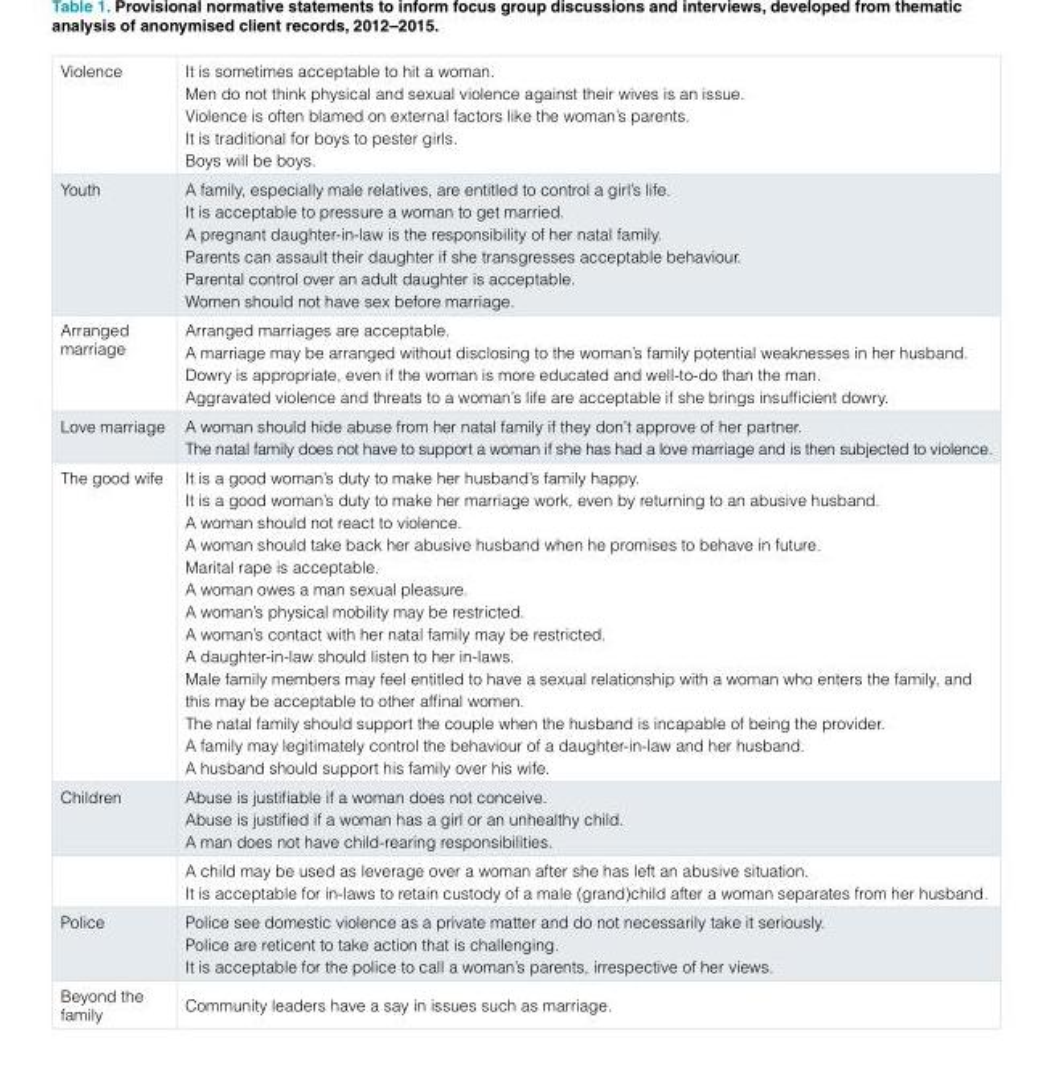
<table><tbody><tr><td>Violence</td><td>It is sometimes acceptable to hit a woman. Men do not think physical and sexual violence against their wives is an issue. Violence is often blamed on external factors like the woman’s parents. It is traditional for boys to pester girls. Boys will be boys.</td></tr><tr><td>Youth</td><td>A family, especially male relatives, are entitled to control a girl’s life. It is acceptable to pressure a woman to get married. A pregnant daughter-in-law is the responsibility of her natal family. Parents can assault their daughter if she transgresses acceptable behaviour. Parental control over an adult daughter is acceptable. Women should not have sex before marriage.</td></tr><tr><td>Arranged marriage</td><td>Arranged marriages are acceptable. A marriage may be arranged without disclosing to the woman’s family potential weaknesses in her husband. Dowry is appropriate, even if the woman is more educated and well-to-do than the man. Aggravated violence and threats to a woman’s life are acceptable if she brings insufficient dowry.</td></tr><tr><td>Love marriage</td><td>A woman should hide abuse from her natal family if they don’t approve of her partner. The natal family does not have to support a woman if she has had a love marriage and is then subjected to violence.</td></tr><tr><td>The good wife</td><td>It is a good woman’s duty to make her husband’s family happy. It is a good woman’s duty to make her marriage work, even by returning to an abusive husband. A woman should not react to violence. A woman should take back her abusive husband when he promises to behave in future. Marital rape is acceptable. A woman owes a man sexual pleasure. A woman’s physical mobility may be restricted. A woman’s contact with her natal family may be restricted. A daughter-in-law should listen to her in-laws. Male family members may feel entitled to have a sexual relationship with a woman who enters the family, and this may be acceptable to other affinal women. The natal family should support the couple when the husband is incapable of being the provider. A family may legitimately control the behaviour of a daughter-in-law and her husband. A husband should support his family over his wife.</td></tr><tr><td rowspan="2">Children</td><td>Abuse is justifiable if a woman does not conceive. Abuse is justified if a woman has a girl or an unhealthy child. A man does not have child-rearing responsibilities.</td></tr><tr><td>A child may be used as leverage over a woman after she has left an abusive situation. It is acceptable for in-laws to retain custody of a male (grand)child after a woman separates from her husband.</td></tr><tr><td>Police</td><td>Police see domestic violence as a private matter and do not necessarily take it seriously. Police are reticent to take action that is challenging. It is acceptable for the police to call a woman’s parents, irrespective of her views.</td></tr><tr><td>Beyond the family</td><td>Community leaders have a say in issues such as marriage.</td></tr></tbody></table>